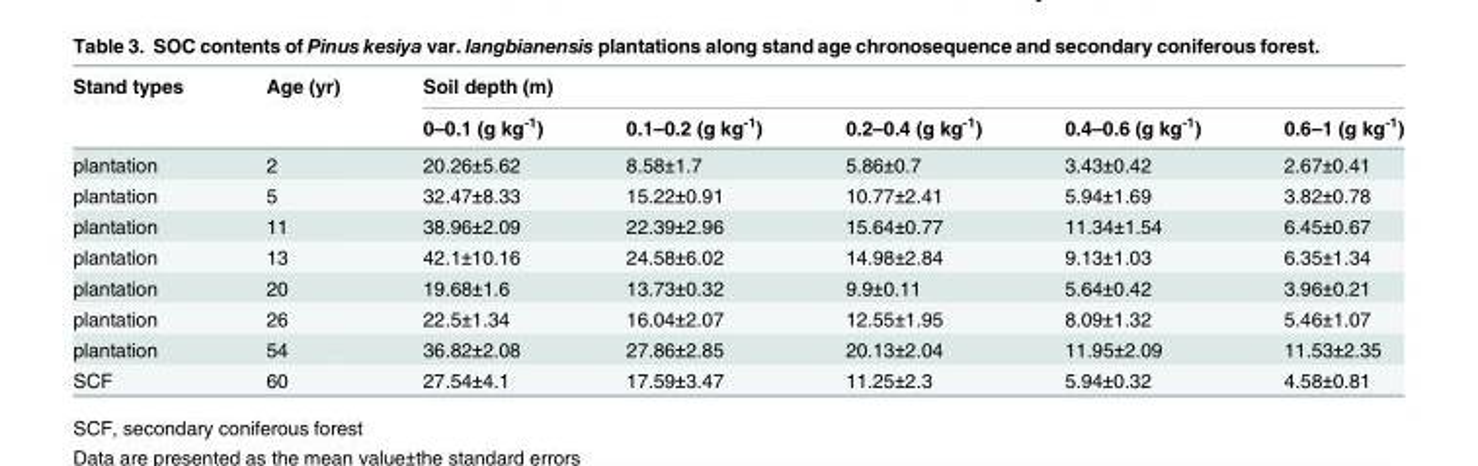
<table><thead><tr><td rowspan="2">Stand types</td><td rowspan="2">Age (yr)</td><td colspan="5">Soil depth (m)</td></tr><tr><td>0–0.1 (g kg<sup>-1</sup>)</td><td>0.1–0.2 (g kg<sup>-1</sup>)</td><td>0.2–0.4 (g kg<sup>-1</sup>)</td><td>0.4–0.6 (g kg<sup>-1</sup>)</td><td>0.6–1 (g kg<sup>-1</sup>)</td></tr></thead><tbody><tr><td>plantation</td><td>2</td><td>20.26±5.62</td><td>8.58±1.7</td><td>5.86±0.7</td><td>3.43±0.42</td><td>2.67±0.41</td></tr><tr><td>plantation</td><td>5</td><td>32.47±8.33</td><td>15.22±0.91</td><td>10.77±2.41</td><td>5.94±1.69</td><td>3.82±0.78</td></tr><tr><td>plantation</td><td>11</td><td>38.96±2.09</td><td>22.39±2.96</td><td>15.64±0.77</td><td>11.34±1.54</td><td>6.45±0.67</td></tr><tr><td>plantation</td><td>13</td><td>42.1±10.16</td><td>24.58±6.02</td><td>14.98±2.84</td><td>9.13±1.03</td><td>6.35±1.34</td></tr><tr><td>plantation</td><td>20</td><td>19.68±1.6</td><td>13.73±0.32</td><td>9.9±0.11</td><td>5.64±0.42</td><td>3.96±0.21</td></tr><tr><td>plantation</td><td>26</td><td>22.5±1.34</td><td>16.04±2.07</td><td>12.55±1.95</td><td>8.09±1.32</td><td>5.46±1.07</td></tr><tr><td>plantation</td><td>54</td><td>36.82±2.08</td><td>27.86±2.85</td><td>20.13±2.04</td><td>11.95±2.09</td><td>11.53±2.35</td></tr><tr><td>SCF</td><td>60</td><td>27.54±4.1</td><td>17.59±3.47</td><td>11.25±2.3</td><td>5.94±0.32</td><td>4.58±0.81</td></tr></tbody></table>